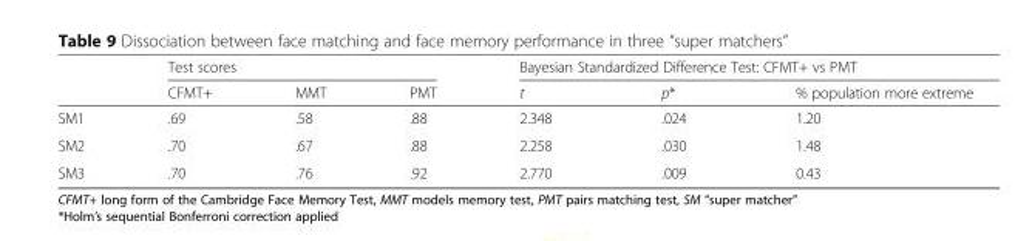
<table><thead><tr><td rowspan="2"></td><td colspan="3">Test scores</td><td colspan="3">Bayesian Standardized Difference Test: CFMT+ vs PMT</td></tr><tr><td>CFMT+</td><td>MMT</td><td>PMT</td><td>t</td><td>p*</td><td>% population more extreme</td></tr></thead><tbody><tr><td>SM1</td><td>.69</td><td>.58</td><td>.88</td><td>2.348</td><td>.024</td><td>1.20</td></tr><tr><td>SM2</td><td>.70</td><td>.67</td><td>.88</td><td>2.258</td><td>.030</td><td>1.48</td></tr><tr><td>SM3</td><td>.70</td><td>.76</td><td>.92</td><td>2.770</td><td>.009</td><td>0.43</td></tr></tbody></table>